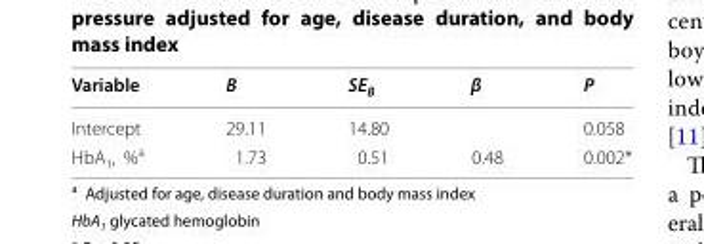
<table><thead><tr><td>Variable</td><td>B</td><td>SE<sub>B</sub></td><td>β</td><td>P</td></tr></thead><tbody><tr><td>Intercept</td><td>29.11</td><td>14.80</td><td></td><td>0.058</td></tr><tr><td>HbA<sub>1</sub>, %<sup>a</sup></td><td>1.73</td><td>0.51</td><td>0.48</td><td>0.002*</td></tr></tbody></table>